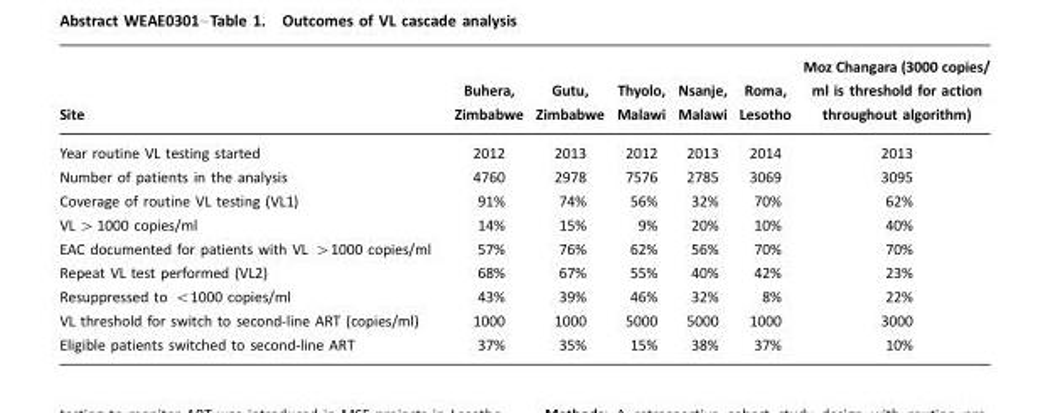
<table><thead><tr><td>Site</td><td>Buhera, Zimbabwe</td><td>Gutu, Zimbabwe</td><td>Thyolo, Malawi</td><td>Nsanje, Malawi</td><td>Roma, Lesotho</td><td>Moz Changara (3000 copies/ ml is threshold for action throughout algorithm)</td></tr></thead><tbody><tr><td>Year routine VL testing started</td><td>2012</td><td>2013</td><td>2012</td><td>2013</td><td>2014</td><td>2013</td></tr><tr><td>Number of patients in the analysis</td><td>4760</td><td>2978</td><td>7576</td><td>2785</td><td>3069</td><td>3095</td></tr><tr><td>Coverage of routine VL testing (VL1)</td><td>91%</td><td>74%</td><td>56%</td><td>32%</td><td>70%</td><td>62%</td></tr><tr><td>VL &gt;1000 copies/ml</td><td>14%</td><td>15%</td><td>9%</td><td>20%</td><td>10%</td><td>40%</td></tr><tr><td>EAC documented for patients with VL &gt;1000 copies/ml</td><td>57%</td><td>76%</td><td>62%</td><td>56%</td><td>70%</td><td>70%</td></tr><tr><td>Repeat VL test performed (VL2)</td><td>68%</td><td>67%</td><td>55%</td><td>40%</td><td>42%</td><td>23%</td></tr><tr><td>Resuppressed to &lt;1000 copies/ml</td><td>43%</td><td>39%</td><td>46%</td><td>32%</td><td>8%</td><td>22%</td></tr><tr><td>VL threshold for switch to second-line ART (copies/ml)</td><td>1000</td><td>1000</td><td>5000</td><td>5000</td><td>1000</td><td>3000</td></tr><tr><td>Eligible patients switched to second-line ART</td><td>37%</td><td>35%</td><td>15%</td><td>38%</td><td>37%</td><td>10%</td></tr></tbody></table>